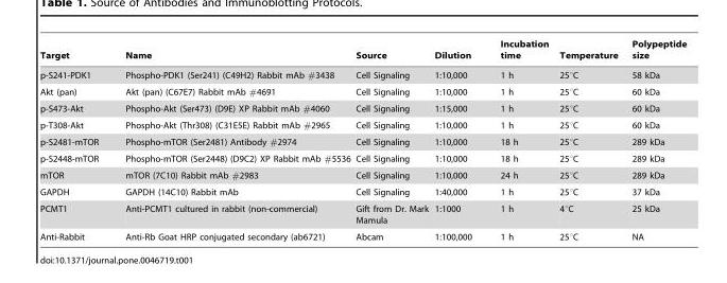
<table><thead><tr><td>Target</td><td>Name</td><td>Source</td><td>Dilution</td><td>Incubation time</td><td>Temperature</td><td>Polypeptide size</td></tr></thead><tbody><tr><td>p-S241-PDK1</td><td>Phospho-PDK1 (Ser241) (C49H2) Rabbit mAb #3438</td><td>Cell Signaling</td><td>1:10,000</td><td>1 h</td><td>25°C</td><td>58 kDa</td></tr><tr><td>Akt (pan)</td><td>Akt (pan) (C67E7) Rabbit mAb #4691</td><td>Cell Signaling</td><td>1:10,000</td><td>1 h</td><td>25°C</td><td>60 kDa</td></tr><tr><td>p-S473-Akt</td><td>Phospho-Akt (Ser473) (D9E) XP Rabbit mAb #4060</td><td>Cell Signaling</td><td>1:15,000</td><td>1 h</td><td>25°C</td><td>60 kDa</td></tr><tr><td>p-T308-Akt</td><td>Phospho-Akt (Thr308) (C31E5E) Rabbit mAb #2965</td><td>Cell Signaling</td><td>1:10,000</td><td>1 h</td><td>25°C</td><td>60 kDa</td></tr><tr><td>p-S2481-mTOR</td><td>Phospho-mTOR (Ser2481) Antibody #2974</td><td>Cell Signaling</td><td>1:10,000</td><td>18 h</td><td>25°C</td><td>289 kDa</td></tr><tr><td>p-S2448-mTOR</td><td>Phospho-mTOR (Ser2448) (D9C2) XP Rabbit mAb #5536</td><td>Cell Signaling</td><td>1:10,000</td><td>18 h</td><td>25°C</td><td>289 kDa</td></tr><tr><td>mTOR</td><td>mTOR (7C10) Rabbit mAb #2983</td><td>Cell Signaling</td><td>1:10,000</td><td>24 h</td><td>25°C</td><td>289 kDa</td></tr><tr><td>GAPDH</td><td>GAPDH (14C10) Rabbit mAb</td><td>Cell Signaling</td><td>1:40,000</td><td>1 h</td><td>25°C</td><td>37 kDa</td></tr><tr><td>PCMT1</td><td>Anti-PCMT1 cultured in rabbit (non-commercial)</td><td>Gift from Dr. Mark Mamula</td><td>1:1000</td><td>1 h</td><td>4°C</td><td>25 kDa</td></tr><tr><td>Anti-Rabbit</td><td>Anti-Rb Goat HRP conjugated secondary (ab6721)</td><td>Abcam</td><td>1:100,000</td><td>1 h</td><td>25°C</td><td>NA</td></tr></tbody></table>